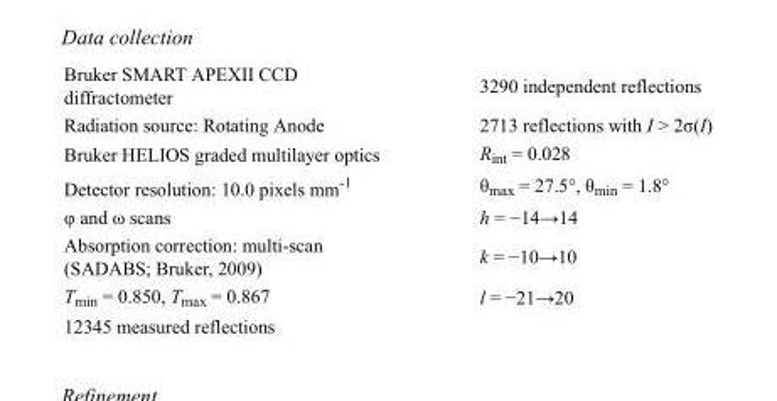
<table><tbody><tr><td>Bruker SMART APEXII CCD diffractometer</td><td>3290 independent reflections</td></tr><tr><td>Radiation source: Rotating Anode</td><td>2713 reflections with I &gt; 2σ(I)</td></tr><tr><td>Bruker HELIOS graded multilayer optics</td><td>R<sub>int</sub> = 0.028</td></tr><tr><td>Detector resolution: 10.0 pixels mm<sup>-1</sup></td><td>θ<sub>max</sub> = 27.5°, θ<sub>min</sub> = 1.8°</td></tr><tr><td>φ and ω scans</td><td>h = −14→14</td></tr><tr><td>Absorption correction: multi-scan (SADABS; Bruker, 2009)</td><td>k = −10→10</td></tr><tr><td>T<sub>min</sub> = 0.850, T<sub>max</sub> = 0.867</td><td>l = −21→20</td></tr><tr><td>12345 measured reflections</td><td></td></tr></tbody></table>